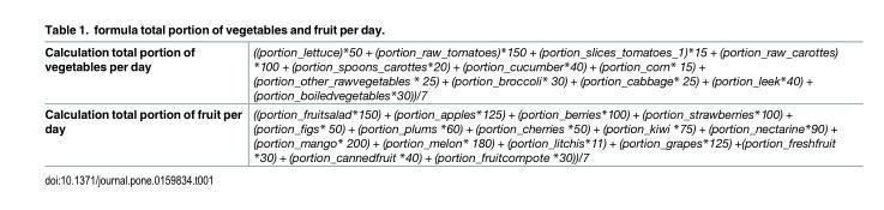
<table><tbody><tr><td>Calculation total portion of vegetables per day</td><td>((portion_lettuce)*50 + (portion_raw_tomatoes)*150 + (portion_slices_tomatoes_1)*15 + (portion_raw_carottes) *100 + (portion_spoons_carottes*20) + (portion_cucumber*40) + (portion_corn* 15) + (portion_other_rawvegetables * 25) + (portion_broccoli* 30) + (portion_cabbage* 25) + (portion_leek*40) + (portion_boiledvegetables*30))/7</td></tr><tr><td>Calculation total portion of fruit per day</td><td>((portion_fruitsalad*150) + (portion_apples*125) + (portion_berries*100) + (portion_strawberries*100) + (portion_figs* 50) + (portion_plums *60) + (portion_cherries *50) + (portion_kiwi *75) + (portion_nectarine*90) + (portion_mango* 200) + (portion_melon* 180) + (portion_litchis*11) + (portion_grapes*125) +(portion_freshfruit *30) + (portion_cannedfruit *40) + (portion_fruitcompote *30))/7</td></tr></tbody></table>